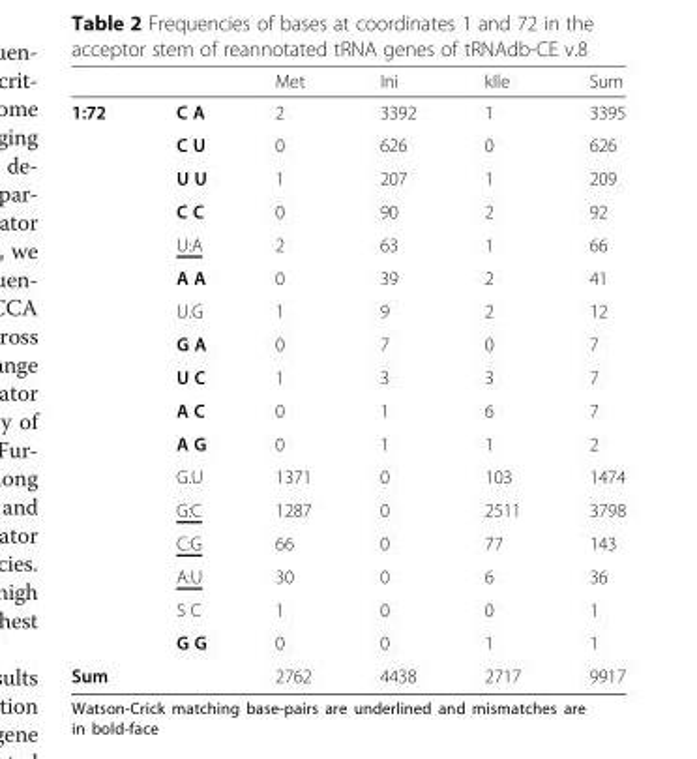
<table><thead><tr><td></td><td></td><td>Met</td><td>Ini</td><td>kIle</td><td>Sum</td></tr></thead><tbody><tr><td rowspan="17">1:72</td><td>C A</td><td>2</td><td>3392</td><td>1</td><td>3395</td></tr><tr><td>C U</td><td>0</td><td>626</td><td>0</td><td>626</td></tr><tr><td>U U</td><td>1</td><td>207</td><td>1</td><td>209</td></tr><tr><td>C C</td><td>0</td><td>90</td><td>2</td><td>92</td></tr><tr><td>U:A</td><td>2</td><td>63</td><td>1</td><td>66</td></tr><tr><td>A A</td><td>0</td><td>39</td><td>2</td><td>41</td></tr><tr><td>U.G</td><td>1</td><td>9</td><td>2</td><td>12</td></tr><tr><td>G A</td><td>0</td><td>7</td><td>0</td><td>7</td></tr><tr><td>U C</td><td>1</td><td>3</td><td>3</td><td>7</td></tr><tr><td>A C</td><td>0</td><td>1</td><td>6</td><td>7</td></tr><tr><td>A G</td><td>0</td><td>1</td><td>1</td><td>2</td></tr><tr><td>G.U</td><td>1371</td><td>0</td><td>103</td><td>1474</td></tr><tr><td>G:C</td><td>1287</td><td>0</td><td>2511</td><td>3798</td></tr><tr><td>C:G</td><td>66</td><td>0</td><td>77</td><td>143</td></tr><tr><td>A:U</td><td>30</td><td>0</td><td>6</td><td>36</td></tr><tr><td>S C</td><td>1</td><td>0</td><td>0</td><td>1</td></tr><tr><td>G G</td><td>0</td><td>0</td><td>1</td><td>1</td></tr><tr><td>Sum</td><td></td><td>2762</td><td>4438</td><td>2717</td><td>9917</td></tr></tbody></table>